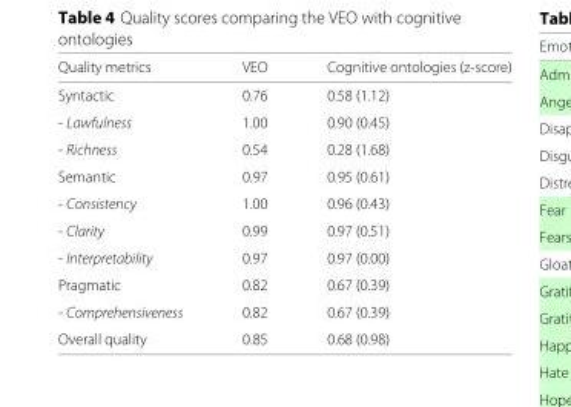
<table><thead><tr><td>Quality metrics</td><td>VEO</td><td>Cognitive ontologies (z-score)</td></tr></thead><tbody><tr><td>Syntactic</td><td>0.76</td><td>0.58 (1.12)</td></tr><tr><td>- Lawfulness</td><td>1.00</td><td>0.90 (0.45)</td></tr><tr><td>- Richness</td><td>0.54</td><td>0.28 (1.68)</td></tr><tr><td>Semantic</td><td>0.97</td><td>0.95 (0.61)</td></tr><tr><td>- Consistency</td><td>1.00</td><td>0.96 (0.43)</td></tr><tr><td>- Clarity</td><td>0.99</td><td>0.97 (0.51)</td></tr><tr><td>- Interpretability</td><td>0.97</td><td>0.97 (0.00)</td></tr><tr><td>Pragmatic</td><td>0.82</td><td>0.67 (0.39)</td></tr><tr><td>- Comprehensiveness</td><td>0.82</td><td>0.67 (0.39)</td></tr><tr><td>Overall quality</td><td>0.85</td><td>0.68 (0.98)</td></tr></tbody></table>